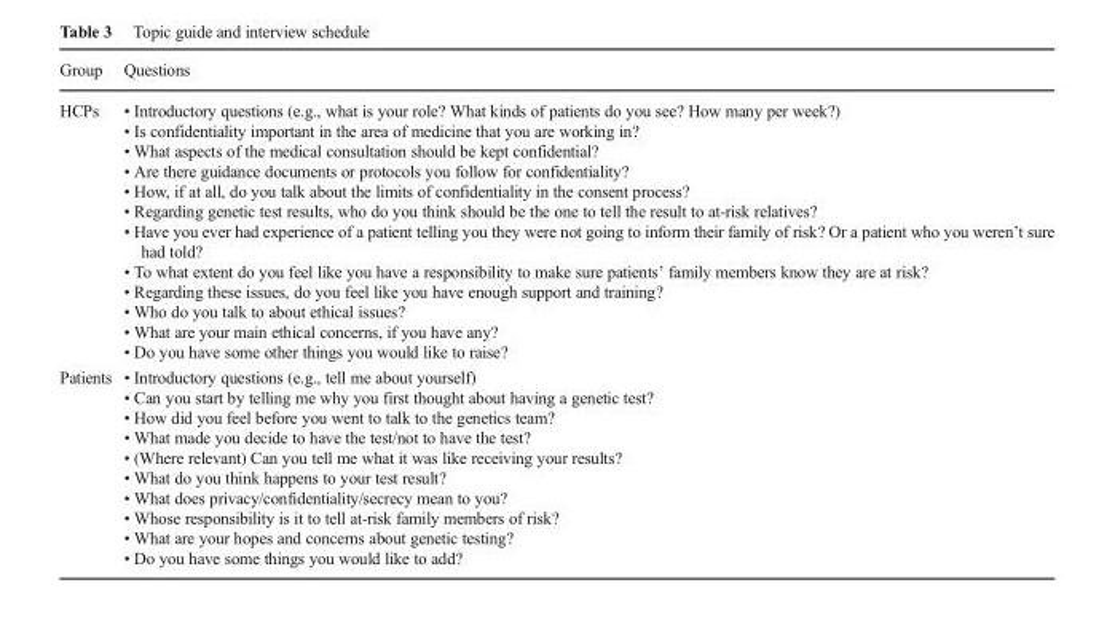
<table><thead><tr><td>Group</td><td>Questions</td></tr></thead><tbody><tr><td>HCPs</td><td>• Introductory questions (e.g., what is your role? What kinds of patients do you see? How many per week?) • Is confidentiality important in the area of medicine that you are working in? • What aspects of the medical consultation should be kept confidential? • Are there guidance documents or protocols you follow for confidentiality? • How, if at all, do you talk about the limits of confidentiality in the consent process? • Regarding genetic test results, who do you think should be the one to tell the result to at-risk relatives? • Have you ever had experience of a patient telling you they were not going to inform their family of risk? Or a patient who you weren’t sure had told? • To what extent do you feel like you have a responsibility to make sure patients’ family members know they are at risk? • Regarding these issues, do you feel like you have enough support and training? • Who do you talk to about ethical issues? • What are your main ethical concerns, if you have any? • Do you have some other things you would like to raise?</td></tr><tr><td>Patients</td><td>• Introductory questions (e.g., tell me about yourself) • Can you start by telling me why you first thought about having a genetic test? • How did you feel before you went to talk to the genetics team? • What made you decide to have the test/not to have the test? • (Where relevant) Can you tell me what it was like receiving your results? • What do you think happens to your test result? • What does privacy/confidentiality/secrecy mean to you? • Whose responsibility is it to tell at-risk family members of risk? • What are your hopes and concerns about genetic testing? • Do you have some things you would like to add?</td></tr></tbody></table>